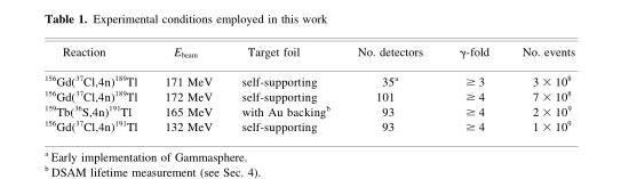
<table><thead><tr><td>Reaction</td><td>E<sub>beam</sub></td><td>Target foil</td><td>No. detectors</td><td>γ-fold</td><td>No. events</td></tr></thead><tbody><tr><td><sup>156</sup>Gd(<sup>37</sup>Cl,4n)<sup>189</sup>Tl</td><td>171 MeV</td><td>self-supporting</td><td>35<sup>a</sup></td><td>≥ 3</td><td>3 × 10<sup>8</sup></td></tr><tr><td><sup>156</sup>Gd(<sup>37</sup>Cl,4n)<sup>189</sup>Tl</td><td>172 MeV</td><td>self-supporting</td><td>101</td><td>≥ 4</td><td>7 × 10<sup>8</sup></td></tr><tr><td><sup>159</sup>Tb(<sup>36</sup>S,4n)<sup>191</sup>Tl</td><td>165 MeV</td><td>with Au backing<sup>b</sup></td><td>93</td><td>≥ 4</td><td>2 × 10<sup>9</sup></td></tr><tr><td><sup>156</sup>Gd(<sup>37</sup>Cl,4n)<sup>191</sup>Tl</td><td>132 MeV</td><td>self-supporting</td><td>93</td><td>≥ 4</td><td>1 × 10<sup>9</sup></td></tr></tbody></table>